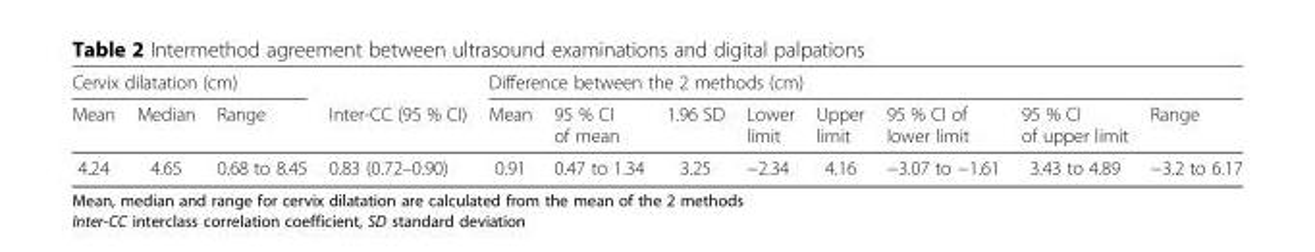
<table><thead><tr><td colspan="3">Cervix dilatation (cm)</td><td rowspan="2">Inter-CC (95 % CI)</td><td colspan="8">Difference between the 2 methods (cm)</td></tr><tr><td>Mean</td><td>Median</td><td>Range</td><td>Mean</td><td>95 % CI of mean</td><td>1.96 SD</td><td>Lower limit</td><td>Upper limit</td><td>95 % CI of lower limit</td><td>95 % CI of upper limit</td><td>Range</td></tr></thead><tbody><tr><td>4.24</td><td>4.65</td><td>0.68 to 8.45</td><td>0.83 (0.72–0.90)</td><td>0.91</td><td>0.47 to 1.34</td><td>3.25</td><td>−2.34</td><td>4.16</td><td>−3.07 to −1.61</td><td>3.43 to 4.89</td><td>−3.2 to 6.17</td></tr></tbody></table>